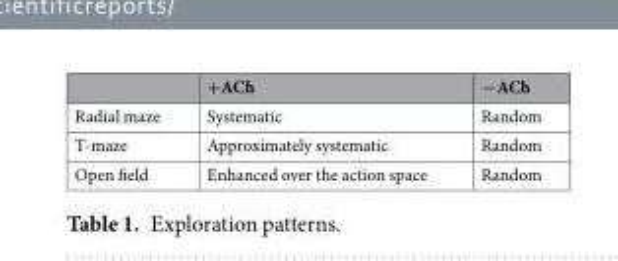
<table><thead><tr><td></td><td>+ACh</td><td>−ACh</td></tr></thead><tbody><tr><td>Radial maze</td><td>Systematic</td><td>Random</td></tr><tr><td>T-maze</td><td>Approximately systematic</td><td>Random</td></tr><tr><td>Open field</td><td>Enhanced over the action space</td><td>Random</td></tr></tbody></table>